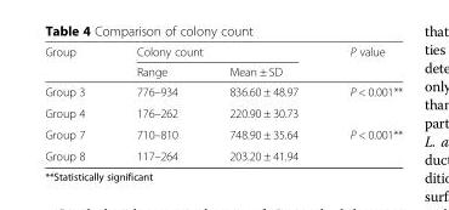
<table><thead><tr><td rowspan="2">Group</td><td colspan="2">Colony count</td><td rowspan="2">P value</td></tr><tr><td>Range</td><td>Mean ± SD</td></tr></thead><tbody><tr><td>Group 3</td><td>776–934</td><td>836.60 ± 48.97</td><td rowspan="2">P &lt; 0.001**</td></tr><tr><td>Group 4</td><td>176–262</td><td>220.90 ± 30.73</td></tr><tr><td>Group 7</td><td>710–810</td><td>748.90 ± 35.64</td><td rowspan="2">P &lt; 0.001**</td></tr><tr><td>Group 8</td><td>117–264</td><td>203.20 ± 41.94</td></tr></tbody></table>